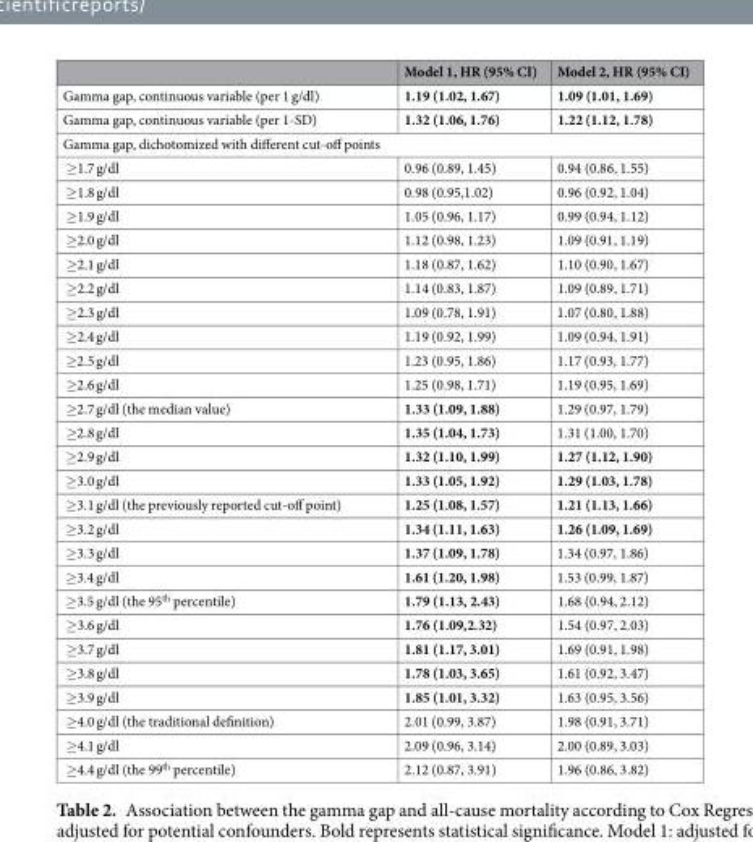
<table><thead><tr><td></td><td>Model 1, HR (95% CI)</td><td>Model 2, HR (95% CI)</td></tr></thead><tbody><tr><td>Gamma gap, continuous variable (per 1 g/dl)</td><td>1.19 (1.02, 1.67)</td><td>1.09 (1.01, 1.69)</td></tr><tr><td>Gamma gap, continuous variable (per 1-SD)</td><td>1.32 (1.06, 1.76)</td><td>1.22 (1.12, 1.78)</td></tr><tr><td colspan="3">Gamma gap, dichotomized with different cut-off points</td></tr><tr><td>≥1.7 g/dl</td><td>0.96 (0.89, 1.45)</td><td>0.94 (0.86, 1.55)</td></tr><tr><td>≥1.8 g/dl</td><td>0.98 (0.95,1.02)</td><td>0.96 (0.92, 1.04)</td></tr><tr><td>≥1.9 g/dl</td><td>1.05 (0.96, 1.17)</td><td>0.99 (0.94, 1.12)</td></tr><tr><td>≥2.0 g/dl</td><td>1.12 (0.98, 1.23)</td><td>1.09 (0.91, 1.19)</td></tr><tr><td>≥2.1 g/dl</td><td>1.18 (0.87, 1.62)</td><td>1.10 (0.90, 1.67)</td></tr><tr><td>≥2.2 g/dl</td><td>1.14 (0.83, 1.87)</td><td>1.09 (0.89, 1.71)</td></tr><tr><td>≥2.3 g/dl</td><td>1.09 (0.78, 1.91)</td><td>1.07 (0.80, 1.88)</td></tr><tr><td>≥2.4 g/dl</td><td>1.19 (0.92, 1.99)</td><td>1.09 (0.94, 1.91)</td></tr><tr><td>≥2.5 g/dl</td><td>1.23 (0.95, 1.86)</td><td>1.17 (0.93, 1.77)</td></tr><tr><td>≥2.6 g/dl</td><td>1.25 (0.98, 1.71)</td><td>1.19 (0.95, 1.69)</td></tr><tr><td>≥2.7 g/dl (the median value)</td><td>1.33 (1.09, 1.88)</td><td>1.29 (0.97, 1.79)</td></tr><tr><td>≥2.8 g/dl</td><td>1.35 (1.04, 1.73)</td><td>1.31 (1.00, 1.70)</td></tr><tr><td>≥2.9 g/dl</td><td>1.32 (1.10, 1.99)</td><td>1.27 (1.12, 1.90)</td></tr><tr><td>≥3.0 g/dl</td><td>1.33 (1.05, 1.92)</td><td>1.29 (1.03, 1.78)</td></tr><tr><td>≥3.1 g/dl (the previously reported cut-off point)</td><td>1.25 (1.08, 1.57)</td><td>1.21 (1.13, 1.66)</td></tr><tr><td>≥3.2 g/dl</td><td>1.34 (1.11, 1.63)</td><td>1.26 (1.09, 1.69)</td></tr><tr><td>≥3.3 g/dl</td><td>1.37 (1.09, 1.78)</td><td>1.34 (0.97, 1.86)</td></tr><tr><td>≥3.4 g/dl</td><td>1.61 (1.20, 1.98)</td><td>1.53 (0.99, 1.87)</td></tr><tr><td>≥3.5 g/dl (the 95<sup>th</sup> percentile)</td><td>1.79 (1.13, 2.43)</td><td>1.68 (0.94, 2.12)</td></tr><tr><td>≥3.6 g/dl</td><td>1.76 (1.09,2.32)</td><td>1.54 (0.97, 2.03)</td></tr><tr><td>≥3.7 g/dl</td><td>1.81 (1.17, 3.01)</td><td>1.69 (0.91, 1.98)</td></tr><tr><td>≥3.8 g/dl</td><td>1.78 (1.03, 3.65)</td><td>1.61 (0.92, 3.47)</td></tr><tr><td>≥3.9 g/dl</td><td>1.85 (1.01, 3.32)</td><td>1.63 (0.95, 3.56)</td></tr><tr><td>≥4.0 g/dl (the traditional definition)</td><td>2.01 (0.99, 3.87)</td><td>1.98 (0.91, 3.71)</td></tr><tr><td>≥4.1 g/dl</td><td>2.09 (0.96, 3.14)</td><td>2.00 (0.89, 3.03)</td></tr><tr><td>≥4.4 g/dl (the 99<sup>th</sup> percentile)</td><td>2.12 (0.87, 3.91)</td><td>1.96 (0.86, 3.82)</td></tr></tbody></table>